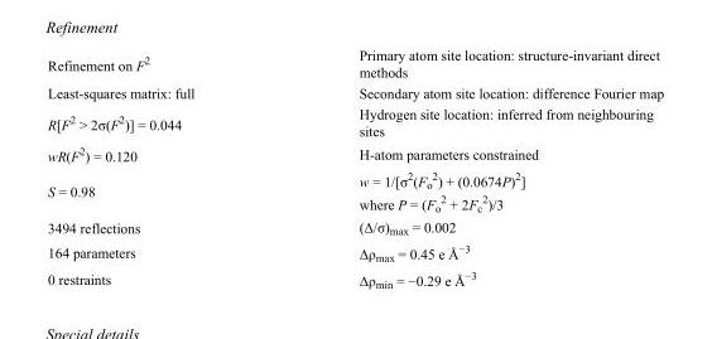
<table><tbody><tr><td>Refinement on F<sup>2</sup></td><td>Primary atom site location: structure-invariant direct methods</td></tr><tr><td>Least-squares matrix: full</td><td>Secondary atom site location: difference Fourier map</td></tr><tr><td>R[F<sup>2</sup> &gt; 2σ(F<sup>2</sup>)] = 0.044</td><td>Hydrogen site location: inferred from neighbouring sites</td></tr><tr><td>wR(F<sup>2</sup>) = 0.120</td><td>H-atom parameters constrained</td></tr><tr><td>S = 0.98</td><td>w = 1/[σ<sup>2</sup>(F<sub>o</sub> <sup>2</sup>) + (0.0674P)<sup>2</sup>] where P = (F<sub>o</sub> <sup>2</sup> + 2F<sub>c</sub> <sup>2</sup>)/3</td></tr><tr><td>3494 reflections</td><td>(Δ/σ)<sub>max</sub> = 0.002</td></tr><tr><td>164 parameters</td><td>Δρ<sub>max</sub> = 0.45 e Å<sup>−3</sup></td></tr><tr><td>0 restraints</td><td>Δρ<sub>min</sub> = −0.29 e Å<sup>−3</sup></td></tr></tbody></table>